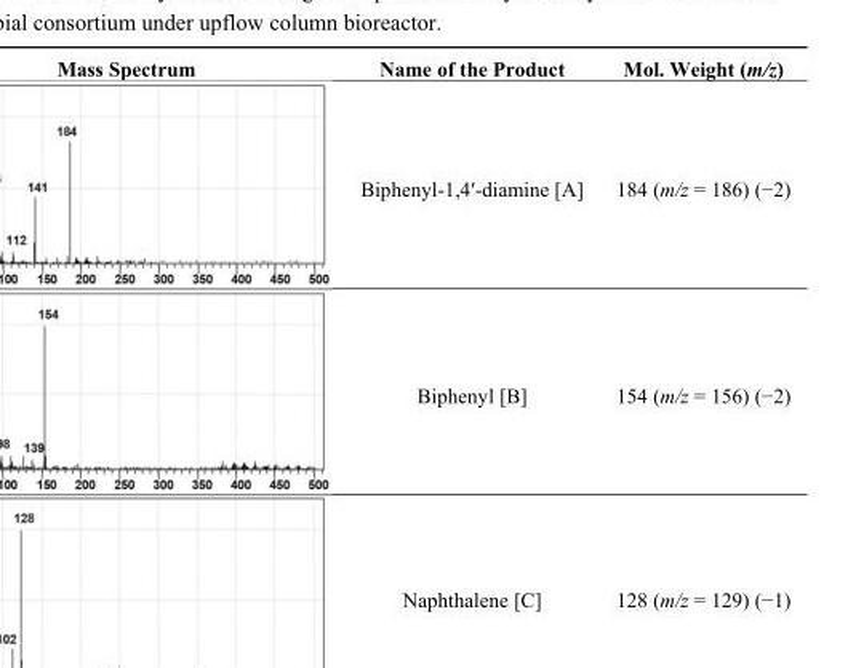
<table><thead><tr><td>Mass Spectrum</td><td>Name of the Product</td><td>Mol. Weight (m/z)</td></tr></thead><tbody><tr><td></td><td>Biphenyl-1,4′-diamine [A]</td><td>184 (m/z = 186) (−2)</td></tr><tr><td></td><td>Biphenyl [B]</td><td>154 (m/z = 156) (−2)</td></tr><tr><td></td><td>Naphthalene [C]</td><td>128 (m/z = 129) (−1)</td></tr></tbody></table>